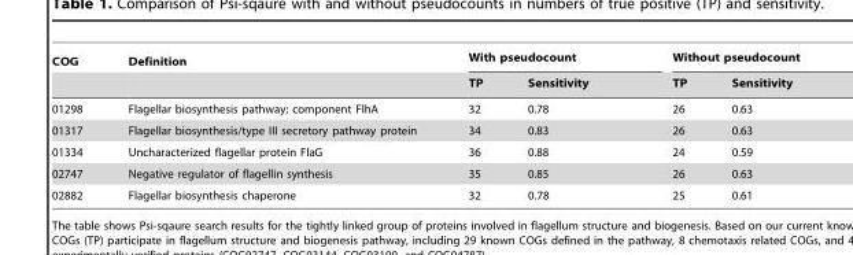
<table><thead><tr><td rowspan="2">COG</td><td rowspan="2">Definition</td><td colspan="2">With pseudocount</td><td colspan="2">Without pseudocount</td></tr><tr><td>TP</td><td>Sensitivity</td><td>TP</td><td>Sensitivity</td></tr></thead><tbody><tr><td>01298</td><td>Flagellar biosynthesis pathway; component FlhA</td><td>32</td><td>0.78</td><td>26</td><td>0.63</td></tr><tr><td>01317</td><td>Flagellar biosynthesis/type III secretory pathway protein</td><td>34</td><td>0.83</td><td>26</td><td>0.63</td></tr><tr><td>01334</td><td>Uncharacterized flagellar protein FlaG</td><td>36</td><td>0.88</td><td>24</td><td>0.59</td></tr><tr><td>02747</td><td>Negative regulator of flagellin synthesis</td><td>35</td><td>0.85</td><td>26</td><td>0.63</td></tr><tr><td>02882</td><td>Flagellar biosynthesis chaperone</td><td>32</td><td>0.78</td><td>25</td><td>0.61</td></tr></tbody></table>